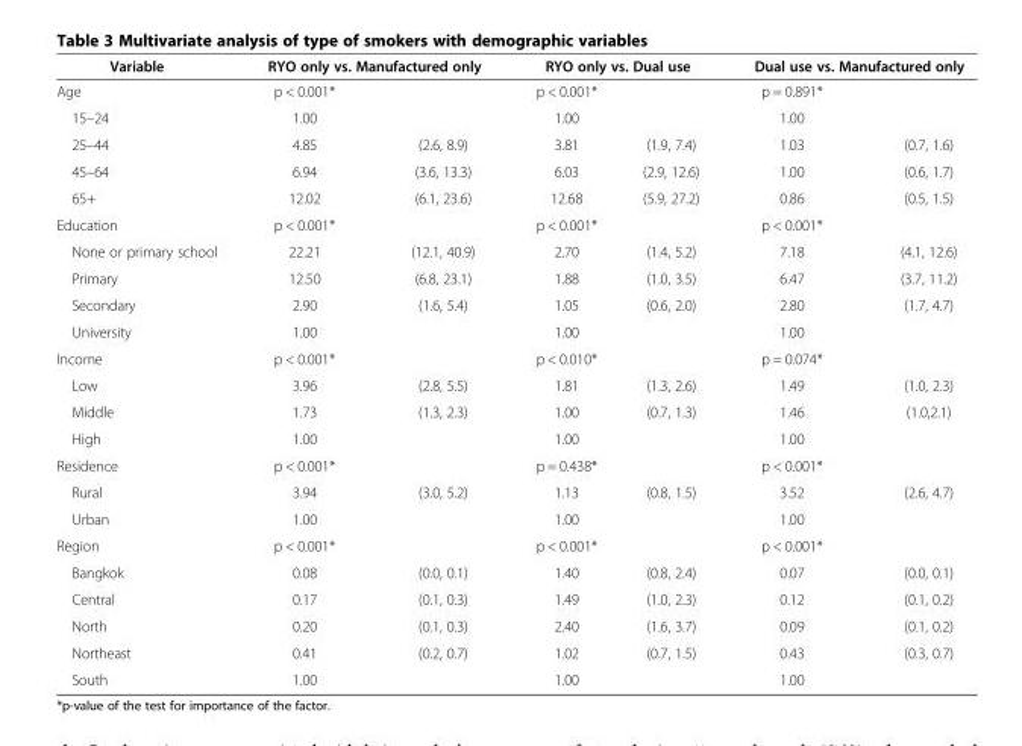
<table><thead><tr><td rowspan="2">Variable Age</td><td colspan="2">RYO only vs. Manufactured only</td><td colspan="2">RYO only vs. Dual use</td><td colspan="2">Dual use vs. Manufactured only</td></tr><tr><td>p &lt; 0.001*</td><td></td><td>p &lt; 0.001*</td><td></td><td>p = 0.891*</td><td></td></tr></thead><tbody><tr><td>15–24</td><td>1.00</td><td></td><td>1.00</td><td></td><td>1.00</td><td></td></tr><tr><td>25–44</td><td>4.85</td><td>(2.6, 8.9)</td><td>3.81</td><td>(1.9, 7.4)</td><td>1.03</td><td>(0.7, 1.6)</td></tr><tr><td>45–64</td><td>6.94</td><td>(3.6, 13.3)</td><td>6.03</td><td>(2.9, 12.6)</td><td>1.00</td><td>(0.6, 1.7)</td></tr><tr><td>65+</td><td>12.02</td><td>(6.1, 23.6)</td><td>12.68</td><td>(5.9, 27.2)</td><td>0.86</td><td>(0.5, 1.5)</td></tr><tr><td>Education</td><td>p &lt; 0.001*</td><td></td><td>p &lt; 0.001*</td><td></td><td>p &lt; 0.001*</td><td></td></tr><tr><td>None or primary school</td><td>22.21</td><td>(12.1, 40.9)</td><td>2.70</td><td>(1.4, 5.2)</td><td>7.18</td><td>(4.1, 12.6)</td></tr><tr><td>Primary</td><td>12.50</td><td>(6.8, 23.1)</td><td>1.88</td><td>(1.0, 3.5)</td><td>6.47</td><td>(3.7, 11.2)</td></tr><tr><td>Secondary</td><td>2.90</td><td>(1.6, 5.4)</td><td>1.05</td><td>(0.6, 2.0)</td><td>2.80</td><td>(1.7, 4.7)</td></tr><tr><td>University</td><td>1.00</td><td></td><td>1.00</td><td></td><td>1.00</td><td></td></tr><tr><td>Income</td><td>p &lt; 0.001*</td><td></td><td>p &lt; 0.010*</td><td></td><td>p = 0.074*</td><td></td></tr><tr><td>Low</td><td>3.96</td><td>(2.8, 5.5)</td><td>1.81</td><td>(1.3, 2.6)</td><td>1.49</td><td>(1.0, 2.3)</td></tr><tr><td>Middle</td><td>1.73</td><td>(1.3, 2.3)</td><td>1.00</td><td>(0.7, 1.3)</td><td>1.46</td><td>(1.0,2.1)</td></tr><tr><td>High</td><td>1.00</td><td></td><td>1.00</td><td></td><td>1.00</td><td></td></tr><tr><td>Residence</td><td>p &lt; 0.001*</td><td></td><td>p = 0.438*</td><td></td><td>p &lt; 0.001*</td><td></td></tr><tr><td>Rural</td><td>3.94</td><td>(3.0, 5.2)</td><td>1.13</td><td>(0.8, 1.5)</td><td>3.52</td><td>(2.6, 4.7)</td></tr><tr><td>Urban</td><td>1.00</td><td></td><td>1.00</td><td></td><td>1.00</td><td></td></tr><tr><td>Region</td><td>p &lt; 0.001*</td><td></td><td>p &lt; 0.001*</td><td></td><td>p &lt; 0.001*</td><td></td></tr><tr><td>Bangkok</td><td>0.08</td><td>(0.0, 0.1)</td><td>1.40</td><td>(0.8, 2.4)</td><td>0.07</td><td>(0.0, 0.1)</td></tr><tr><td>Central</td><td>0.17</td><td>(0.1, 0.3)</td><td>1.49</td><td>(1.0, 2.3)</td><td>0.12</td><td>(0.1, 0.2)</td></tr><tr><td>North</td><td>0.20</td><td>(0.1, 0.3)</td><td>2.40</td><td>(1.6, 3.7)</td><td>0.09</td><td>(0.1, 0.2)</td></tr><tr><td>Northeast</td><td>0.41</td><td>(0.2, 0.7)</td><td>1.02</td><td>(0.7, 1.5)</td><td>0.43</td><td>(0.3, 0.7)</td></tr><tr><td>South</td><td>1.00</td><td></td><td>1.00</td><td></td><td>1.00</td><td></td></tr></tbody></table>